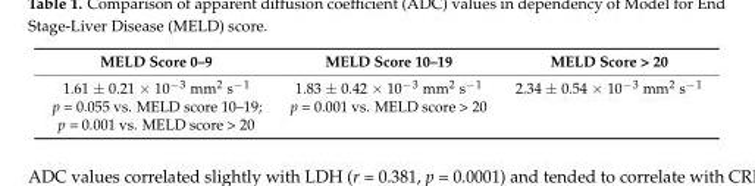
<table><thead><tr><td>MELD Score 0–9</td><td>MELD Score 10–19</td><td>MELD Score &gt; 20</td></tr></thead><tbody><tr><td>1.61 ± 0.21 × 10<sup>−3</sup> mm<sup>2</sup> s<sup>−1</sup> p = 0.055 vs. MELD score 10–19; p = 0.001 vs. MELD score &gt; 20</td><td>1.83 ± 0.42 × 10<sup>−3</sup> mm<sup>2</sup> s<sup>−1</sup> p = 0.001 vs. MELD score &gt; 20</td><td>2.34 ± 0.54 × 10<sup>−3</sup> mm<sup>2</sup> s<sup>−1</sup></td></tr></tbody></table>